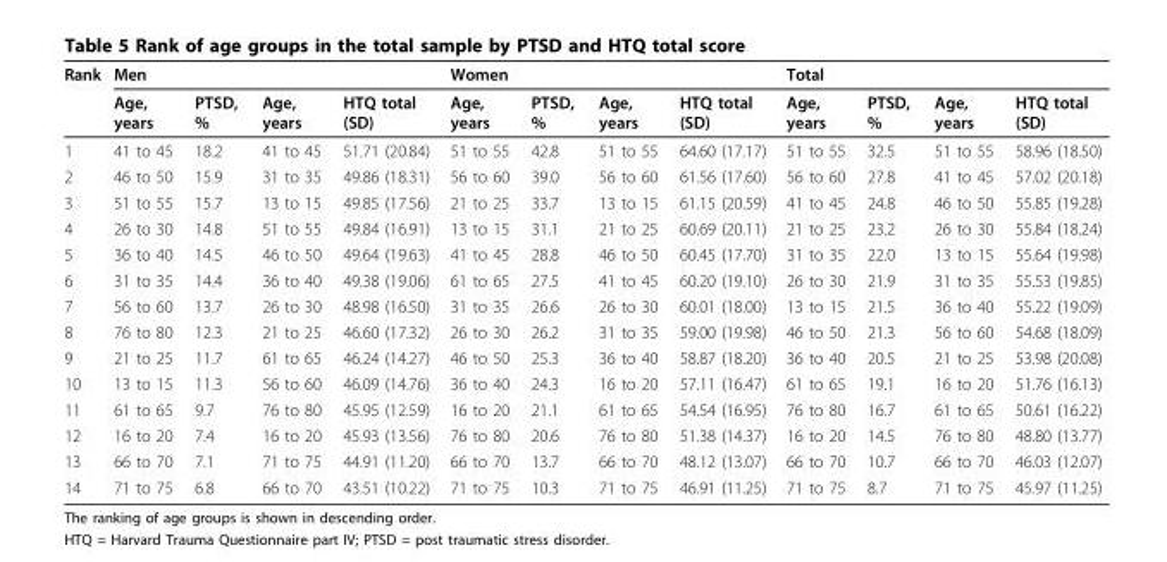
<table><thead><tr><td rowspan="2">Rank</td><td colspan="4">Men</td><td colspan="4">Women</td><td colspan="4">Total</td></tr><tr><td>Age, years</td><td>PTSD, %</td><td>Age, years</td><td>HTQ total (SD)</td><td>Age, years</td><td>PTSD, %</td><td>Age, years</td><td>HTQ total (SD)</td><td>Age, years</td><td>PTSD, %</td><td>Age, years</td><td>HTQ total (SD)</td></tr></thead><tbody><tr><td>1</td><td>41 to 45</td><td>18.2</td><td>41 to 45</td><td>51.71 (20.84)</td><td>51 to 55</td><td>42.8</td><td>51 to 55</td><td>64.60 (17.17)</td><td>51 to 55</td><td>32.5</td><td>51 to 55</td><td>58.96 (18.50)</td></tr><tr><td>2</td><td>46 to 50</td><td>15.9</td><td>31 to 35</td><td>49.86 (18.31)</td><td>56 to 60</td><td>39.0</td><td>56 to 60</td><td>61.56 (17.60)</td><td>56 to 60</td><td>27.8</td><td>41 to 45</td><td>57.02 (20.18)</td></tr><tr><td>3</td><td>51 to 55</td><td>15.7</td><td>13 to 15</td><td>49.85 (17.56)</td><td>21 to 25</td><td>33.7</td><td>13 to 15</td><td>61.15 (20.59)</td><td>41 to 45</td><td>24.8</td><td>46 to 50</td><td>55.85 (19.28)</td></tr><tr><td>4</td><td>26 to 30</td><td>14.8</td><td>51 to 55</td><td>49.84 (16.91)</td><td>13 to 15</td><td>31.1</td><td>21 to 25</td><td>60.69 (20.11)</td><td>21 to 25</td><td>23.2</td><td>26 to 30</td><td>55.84 (18.24)</td></tr><tr><td>5</td><td>36 to 40</td><td>14.5</td><td>46 to 50</td><td>49.64 (19.63)</td><td>41 to 45</td><td>28.8</td><td>46 to 50</td><td>60.45 (17.70)</td><td>31 to 35</td><td>22.0</td><td>13 to 15</td><td>55.64 (19.98)</td></tr><tr><td>6</td><td>31 to 35</td><td>14.4</td><td>36 to 40</td><td>49.38 (19.06)</td><td>61 to 65</td><td>27.5</td><td>41 to 45</td><td>60.20 (19.10)</td><td>26 to 30</td><td>21.9</td><td>31 to 35</td><td>55.53 (19.85)</td></tr><tr><td>7</td><td>56 to 60</td><td>13.7</td><td>26 to 30</td><td>48.98 (16.50)</td><td>31 to 35</td><td>26.6</td><td>26 to 30</td><td>60.01 (18.00)</td><td>13 to 15</td><td>21.5</td><td>36 to 40</td><td>55.22 (19.09)</td></tr><tr><td>8</td><td>76 to 80</td><td>12.3</td><td>21 to 25</td><td>46.60 (17.32)</td><td>26 to 30</td><td>26.2</td><td>31 to 35</td><td>59.00 (19.98)</td><td>46 to 50</td><td>21.3</td><td>56 to 60</td><td>54.68 (18.09)</td></tr><tr><td>9</td><td>21 to 25</td><td>11.7</td><td>61 to 65</td><td>46.24 (14.27)</td><td>46 to 50</td><td>25.3</td><td>36 to 40</td><td>58.87 (18.20)</td><td>36 to 40</td><td>20.5</td><td>21 to 25</td><td>53.98 (20.08)</td></tr><tr><td>10</td><td>13 to 15</td><td>11.3</td><td>56 to 60</td><td>46.09 (14.76)</td><td>36 to 40</td><td>24.3</td><td>16 to 20</td><td>57.11 (16.47)</td><td>61 to 65</td><td>19.1</td><td>16 to 20</td><td>51.76 (16.13)</td></tr><tr><td>11</td><td>61 to 65</td><td>9.7</td><td>76 to 80</td><td>45.95 (12.59)</td><td>16 to 20</td><td>21.1</td><td>61 to 65</td><td>54.54 (16.95)</td><td>76 to 80</td><td>16.7</td><td>61 to 65</td><td>50.61 (16.22)</td></tr><tr><td>12</td><td>16 to 20</td><td>7.4</td><td>16 to 20</td><td>45.93 (13.56)</td><td>76 to 80</td><td>20.6</td><td>76 to 80</td><td>51.38 (14.37)</td><td>16 to 20</td><td>14.5</td><td>76 to 80</td><td>48.80 (13.77)</td></tr><tr><td>13</td><td>66 to 70</td><td>7.1</td><td>71 to 75</td><td>44.91 (11.20)</td><td>66 to 70</td><td>13.7</td><td>66 to 70</td><td>48.12 (13.07)</td><td>66 to 70</td><td>10.7</td><td>66 to 70</td><td>46.03 (12.07)</td></tr><tr><td>14</td><td>71 to 75</td><td>6.8</td><td>66 to 70</td><td>43.51 (10.22)</td><td>71 to 75</td><td>10.3</td><td>71 to 75</td><td>46.91 (11.25)</td><td>71 to 75</td><td>8.7</td><td>71 to 75</td><td>45.97 (11.25)</td></tr></tbody></table>